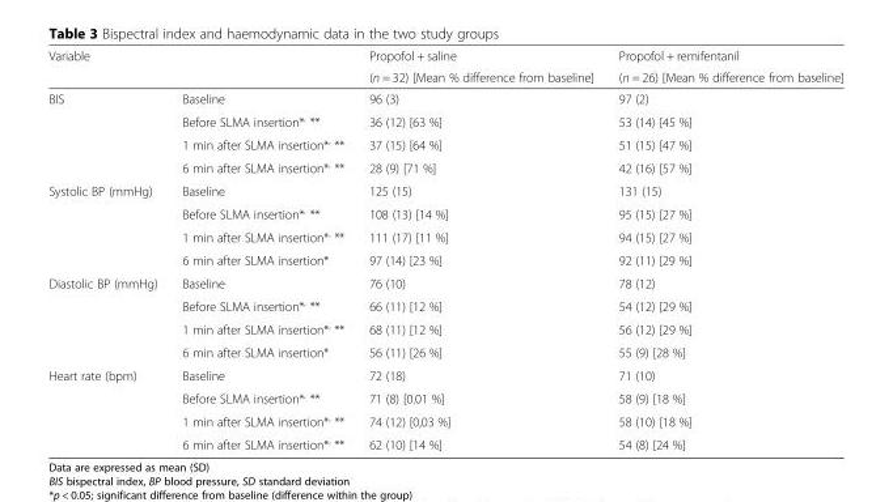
<table><thead><tr><td rowspan="2">Variable</td><td rowspan="2"></td><td rowspan="2">Propofol + saline (n = 32) [Mean % difference from baseline]</td><td rowspan="2">Propofol + remifentanil (n = 26) [Mean % difference from baseline]</td></tr><tr></tr></thead><tbody><tr><td rowspan="4">BIS</td><td>Baseline</td><td>96 (3)</td><td>97 (2)</td></tr><tr><td>Before SLMA insertion*<sup>,</sup> **</td><td>36 (12) [63 %]</td><td>53 (14) [45 %]</td></tr><tr><td>1 min after SLMA insertion*<sup>,</sup> **</td><td>37 (15) [64 %]</td><td>51 (15) [47 %]</td></tr><tr><td>6 min after SLMA insertion*<sup>,</sup> **</td><td>28 (9) [71 %]</td><td>42 (16) [57 %]</td></tr><tr><td rowspan="4">Systolic BP (mmHg)</td><td>Baseline</td><td>125 (15)</td><td>131 (15)</td></tr><tr><td>Before SLMA insertion*<sup>,</sup> **</td><td>108 (13) [14 %]</td><td>95 (15) [27 %]</td></tr><tr><td>1 min after SLMA insertion*<sup>,</sup> **</td><td>111 (17) [11 %]</td><td>94 (15) [27 %]</td></tr><tr><td>6 min after SLMA insertion*</td><td>97 (14) [23 %]</td><td>92 (11) [29 %]</td></tr><tr><td rowspan="4">Diastolic BP (mmHg)</td><td>Baseline</td><td>76 (10)</td><td>78 (12)</td></tr><tr><td>Before SLMA insertion*<sup>,</sup> **</td><td>66 (11) [12 %]</td><td>54 (12) [29 %]</td></tr><tr><td>1 min after SLMA insertion*<sup>,</sup> **</td><td>68 (11) [12 %]</td><td>56 (12) [29 %]</td></tr><tr><td>6 min after SLMA insertion*</td><td>56 (11) [26 %]</td><td>55 (9) [28 %]</td></tr><tr><td rowspan="4">Heart rate (bpm)</td><td>Baseline</td><td>72 (18)</td><td>71 (10)</td></tr><tr><td>Before SLMA insertion*<sup>,</sup> **</td><td>71 (8) [0.01 %]</td><td>58 (9) [18 %]</td></tr><tr><td>1 min after SLMA insertion*<sup>,</sup> **</td><td>74 (12) [0,03 %]</td><td>58 (10) [18 %]</td></tr><tr><td>6 min after SLMA insertion*<sup>,</sup> **</td><td>62 (10) [14 %]</td><td>54 (8) [24 %]</td></tr></tbody></table>